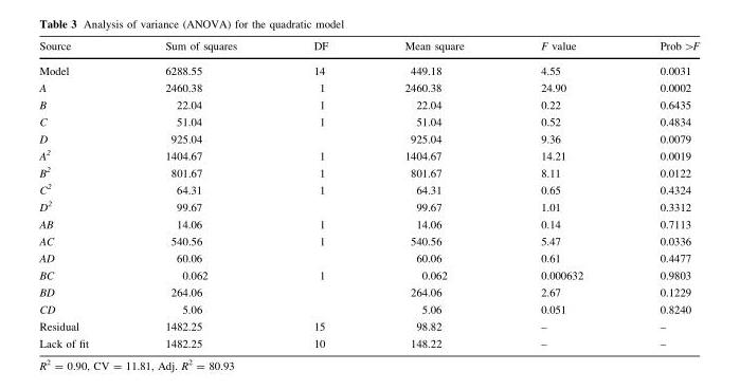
<table><thead><tr><td>Source</td><td>Sum of squares</td><td>DF</td><td>Mean square</td><td>F value</td><td>Prob &gt;F</td></tr></thead><tbody><tr><td>Model</td><td>6288.55</td><td>14</td><td>449.18</td><td>4.55</td><td>0.0031</td></tr><tr><td>A</td><td>2460.38</td><td>1</td><td>2460.38</td><td>24.90</td><td>0.0002</td></tr><tr><td>B</td><td>22.04</td><td>1</td><td>22.04</td><td>0.22</td><td>0.6435</td></tr><tr><td>C</td><td>51.04</td><td>1</td><td>51.04</td><td>0.52</td><td>0.4834</td></tr><tr><td>D</td><td>925.04</td><td></td><td>925.04</td><td>9.36</td><td>0.0079</td></tr><tr><td>A<sup>2</sup></td><td>1404.67</td><td>1</td><td>1404.67</td><td>14.21</td><td>0.0019</td></tr><tr><td>B<sup>2</sup></td><td>801.67</td><td>1</td><td>801.67</td><td>8.11</td><td>0.0122</td></tr><tr><td>C<sup>2</sup></td><td>64.31</td><td>1</td><td>64.31</td><td>0.65</td><td>0.4324</td></tr><tr><td>D<sup>2</sup></td><td>99.67</td><td></td><td>99.67</td><td>1.01</td><td>0.3312</td></tr><tr><td>AB</td><td>14.06</td><td>1</td><td>14.06</td><td>0.14</td><td>0.7113</td></tr><tr><td>AC</td><td>540.56</td><td>1</td><td>540.56</td><td>5.47</td><td>0.0336</td></tr><tr><td>AD</td><td>60.06</td><td></td><td>60.06</td><td>0.61</td><td>0.4477</td></tr><tr><td>BC</td><td>0.062</td><td>1</td><td>0.062</td><td>0.000632</td><td>0.9803</td></tr><tr><td>BD</td><td>264.06</td><td></td><td>264.06</td><td>2.67</td><td>0.1229</td></tr><tr><td>CD</td><td>5.06</td><td></td><td>5.06</td><td>0.051</td><td>0.8240</td></tr><tr><td>Residual</td><td>1482.25</td><td>15</td><td>98.82</td><td>–</td><td>–</td></tr><tr><td>Lack of fit</td><td>1482.25</td><td>10</td><td>148.22</td><td>–</td><td>–</td></tr></tbody></table>